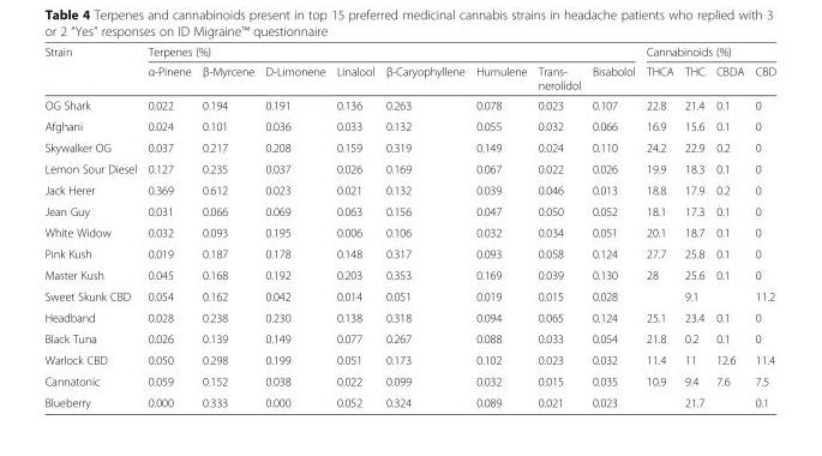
<table><thead><tr><td rowspan="2">Strain</td><td colspan="8">Terpenes (%)</td><td colspan="4">Cannabinoids (%)</td></tr><tr><td>α-Pinene</td><td>β-Myrcene</td><td>D-Limonene</td><td>Linalool</td><td>β-Caryophyllene</td><td>Humulene</td><td>Trans- nerolidol</td><td>Bisabolol</td><td>THCA</td><td>THC</td><td>CBDA</td><td>CBD</td></tr></thead><tbody><tr><td>OG Shark</td><td>0.022</td><td>0.194</td><td>0.191</td><td>0.136</td><td>0.263</td><td>0.078</td><td>0.023</td><td>0.107</td><td>22.8</td><td>21.4</td><td>0.1</td><td>0</td></tr><tr><td>Afghani</td><td>0.024</td><td>0.101</td><td>0.036</td><td>0.033</td><td>0.132</td><td>0.055</td><td>0.032</td><td>0.066</td><td>16.9</td><td>15.6</td><td>0.1</td><td>0</td></tr><tr><td>Skywalker OG</td><td>0.037</td><td>0.217</td><td>0.208</td><td>0.159</td><td>0.319</td><td>0.149</td><td>0.024</td><td>0.110</td><td>24.2</td><td>22.9</td><td>0.2</td><td>0</td></tr><tr><td>Lemon Sour Diesel</td><td>0.127</td><td>0.235</td><td>0.037</td><td>0.026</td><td>0.169</td><td>0.067</td><td>0.022</td><td>0.026</td><td>19.9</td><td>18.3</td><td>0.1</td><td>0</td></tr><tr><td>Jack Herer</td><td>0.369</td><td>0.612</td><td>0.023</td><td>0.021</td><td>0.132</td><td>0.039</td><td>0.046</td><td>0.013</td><td>18.8</td><td>17.9</td><td>0.2</td><td>0</td></tr><tr><td>Jean Guy</td><td>0.031</td><td>0.066</td><td>0.069</td><td>0.063</td><td>0.156</td><td>0.047</td><td>0.050</td><td>0.052</td><td>18.1</td><td>17.3</td><td>0.1</td><td>0</td></tr><tr><td>White Widow</td><td>0.032</td><td>0.093</td><td>0.195</td><td>0.006</td><td>0.106</td><td>0.032</td><td>0.034</td><td>0.051</td><td>20.1</td><td>18.7</td><td>0.1</td><td>0</td></tr><tr><td>Pink Kush</td><td>0.019</td><td>0.187</td><td>0.178</td><td>0.148</td><td>0.317</td><td>0.093</td><td>0.058</td><td>0.124</td><td>27.7</td><td>25.8</td><td>0.1</td><td>0</td></tr><tr><td>Master Kush</td><td>0.045</td><td>0.168</td><td>0.192</td><td>0.203</td><td>0.353</td><td>0.169</td><td>0.039</td><td>0.130</td><td>28</td><td>25.6</td><td>0.1</td><td>0</td></tr><tr><td>Sweet Skunk CBD</td><td>0.054</td><td>0.162</td><td>0.042</td><td>0.014</td><td>0.051</td><td>0.019</td><td>0.015</td><td>0.028</td><td></td><td>9.1</td><td></td><td>11.2</td></tr><tr><td>Headband</td><td>0.028</td><td>0.238</td><td>0.230</td><td>0.138</td><td>0.318</td><td>0.094</td><td>0.065</td><td>0.124</td><td>25.1</td><td>23.4</td><td>0.1</td><td>0</td></tr><tr><td>Black Tuna</td><td>0.026</td><td>0.139</td><td>0.149</td><td>0.077</td><td>0.267</td><td>0.088</td><td>0.033</td><td>0.054</td><td>21.8</td><td>0.2</td><td>0.1</td><td>0</td></tr><tr><td>Warlock CBD</td><td>0.050</td><td>0.298</td><td>0.199</td><td>0.051</td><td>0.173</td><td>0.102</td><td>0.023</td><td>0.032</td><td>11.4</td><td>11</td><td>12.6</td><td>11.4</td></tr><tr><td>Cannatonic</td><td>0.059</td><td>0.152</td><td>0.038</td><td>0.022</td><td>0.099</td><td>0.032</td><td>0.015</td><td>0.035</td><td>10.9</td><td>9.4</td><td>7.6</td><td>7.5</td></tr><tr><td>Blueberry</td><td>0.000</td><td>0.333</td><td>0.000</td><td>0.052</td><td>0.324</td><td>0.089</td><td>0.021</td><td>0.023</td><td></td><td>21.7</td><td></td><td>0.1</td></tr></tbody></table>